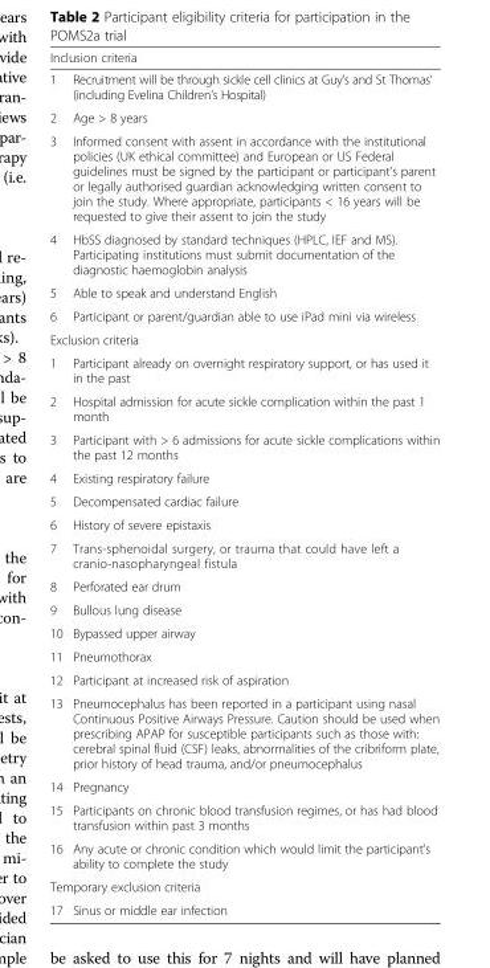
<table><thead><tr><td colspan="2">Inclusion criteria</td></tr><tr><td>1</td><td>Recruitment will be through sickle cell clinics at Guy’s and St Thomas’ (including Evelina Children’s Hospital)</td></tr></thead><tbody><tr><td>2</td><td>Age &gt; 8 years</td></tr><tr><td>3</td><td>Informed consent with assent in accordance with the institutional policies (UK ethical committee) and European or US Federal guidelines must be signed by the participant or participant&#x27;s parent or legally authorised guardian acknowledging written consent to join the study. Where appropriate, participants &lt; 16 years will be requested to give their assent to join the study</td></tr><tr><td>4</td><td>HbSS diagnosed by standard techniques (HPLC, IEF and MS). Participating institutions must submit documentation of the diagnostic haemoglobin analysis</td></tr><tr><td>5</td><td>Able to speak and understand English</td></tr><tr><td>6</td><td>Participant or parent/guardian able to use iPad mini via wireless</td></tr><tr><td colspan="2">Exclusion criteria</td></tr><tr><td>1</td><td>Participant already on overnight respiratory support, or has used it in the past</td></tr><tr><td>2</td><td>Hospital admission for acute sickle complication within the past 1 month</td></tr><tr><td>3</td><td>Participant with &gt; 6 admissions for acute sickle complications within the past 12 months</td></tr><tr><td>4</td><td>Existing respiratory failure</td></tr><tr><td>5</td><td>Decompensated cardiac failure</td></tr><tr><td>6</td><td>History of severe epistaxis</td></tr><tr><td>7</td><td>Trans-sphenoidal surgery, or trauma that could have left a cranio-nasopharyngeal fistula</td></tr><tr><td>8</td><td>Perforated ear drum</td></tr><tr><td>9</td><td>Bullous lung disease</td></tr><tr><td>10</td><td>Bypassed upper airway</td></tr><tr><td>11</td><td>Pneumothorax</td></tr><tr><td>12</td><td>Participant at increased risk of aspiration</td></tr><tr><td>13</td><td>Pneumocephalus has been reported in a participant using nasal Continuous Positive Airways Pressure. Caution should be used when prescribing APAP for susceptible participants such as those with: cerebral spinal fluid (CSF) leaks, abnormalities of the cribriform plate, prior history of head trauma, and/or pneumocephalus</td></tr><tr><td>14</td><td>Pregnancy</td></tr><tr><td>15</td><td>Participants on chronic blood transfusion regimes, or has had blood transfusion within past 3 months</td></tr><tr><td>16</td><td>Any acute or chronic condition which would limit the participant’s ability to complete the study</td></tr><tr><td colspan="2">Temporary exclusion criteria</td></tr><tr><td>17</td><td>Sinus or middle ear infection</td></tr></tbody></table>